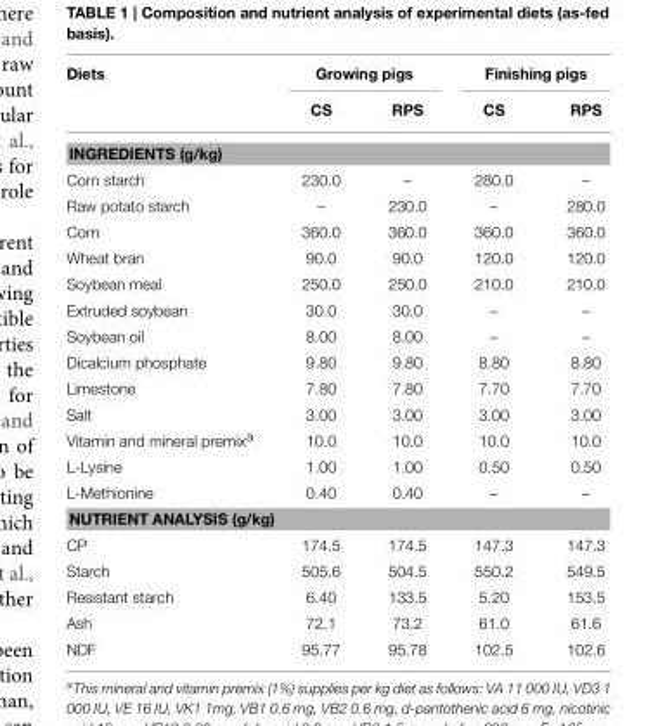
<table><thead><tr><td rowspan="2">Diets</td><td colspan="2">Growing pigs</td><td colspan="2">Finishing pigs</td></tr><tr><td>CS</td><td>RPS</td><td>CS</td><td>RPS</td></tr></thead><tbody><tr><td colspan="5">INGREDIENTS (g/kg)</td></tr><tr><td>Corn starch</td><td>230.0</td><td>–</td><td>280.0</td><td>–</td></tr><tr><td>Raw potato starch</td><td>–</td><td>230.0</td><td>–</td><td>280.0</td></tr><tr><td>Corn</td><td>360.0</td><td>360.0</td><td>360.0</td><td>360.0</td></tr><tr><td>Wheat bran</td><td>90.0</td><td>90.0</td><td>120.0</td><td>120.0</td></tr><tr><td>Soybean meal</td><td>250.0</td><td>250.0</td><td>210.0</td><td>210.0</td></tr><tr><td>Extruded soybean</td><td>30.0</td><td>30.0</td><td>–</td><td>–</td></tr><tr><td>Soybean oil</td><td>8.00</td><td>8.00</td><td>–</td><td>–</td></tr><tr><td>Dicalcium phosphate</td><td>9.80</td><td>9.80</td><td>8.80</td><td>8.80</td></tr><tr><td>Limestone</td><td>7.80</td><td>7.80</td><td>7.70</td><td>7.70</td></tr><tr><td>Salt</td><td>3.00</td><td>3.00</td><td>3.00</td><td>3.00</td></tr><tr><td>Vitamin and mineral premix<sup>a</sup></td><td>10.0</td><td>10.0</td><td>10.0</td><td>10.0</td></tr><tr><td>L-Lysine</td><td>1.00</td><td>1.00</td><td>0.50</td><td>0.50</td></tr><tr><td>L-Methionine</td><td>0.40</td><td>0.40</td><td>–</td><td>–</td></tr><tr><td colspan="5">NUTRIENT ANALYSIS (g/kg)</td></tr><tr><td>CP</td><td>174.5</td><td>174.5</td><td>147.3</td><td>147.3</td></tr><tr><td>Starch</td><td>505.6</td><td>504.5</td><td>550.2</td><td>549.5</td></tr><tr><td>Resistant starch</td><td>6.40</td><td>133.5</td><td>5.20</td><td>153.5</td></tr><tr><td>Ash</td><td>72.1</td><td>73.2</td><td>61.0</td><td>61.6</td></tr><tr><td>NDF</td><td>95.77</td><td>95.78</td><td>102.5</td><td>102.6</td></tr></tbody></table>